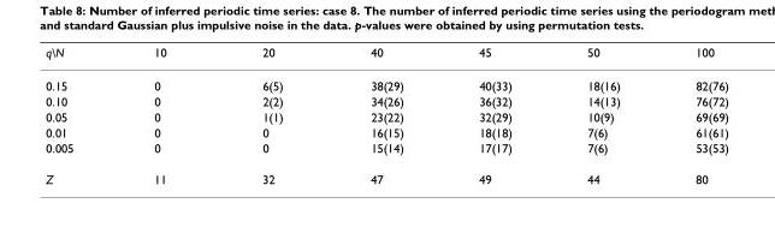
<table><thead><tr><td>q\N</td><td>10</td><td>20</td><td>40</td><td>45</td><td>50</td><td>100</td></tr></thead><tbody><tr><td>0.15</td><td>0</td><td>6(5)</td><td>38(29)</td><td>40(33)</td><td>18(16)</td><td>82(76)</td></tr><tr><td>0.10</td><td>0</td><td>2(2)</td><td>34(26)</td><td>36(32)</td><td>14(13)</td><td>76(72)</td></tr><tr><td>0.05</td><td>0</td><td>1(1)</td><td>23(22)</td><td>32(29)</td><td>10(9)</td><td>69(69)</td></tr><tr><td>0.01</td><td>0</td><td>0</td><td>16(15)</td><td>18(18)</td><td>7(6)</td><td>61(61)</td></tr><tr><td>0.005</td><td>0</td><td>0</td><td>15(14)</td><td>17(17)</td><td>7(6)</td><td>53(53)</td></tr><tr><td>Z</td><td>11</td><td>32</td><td>47</td><td>49</td><td>44</td><td>80</td></tr></tbody></table>